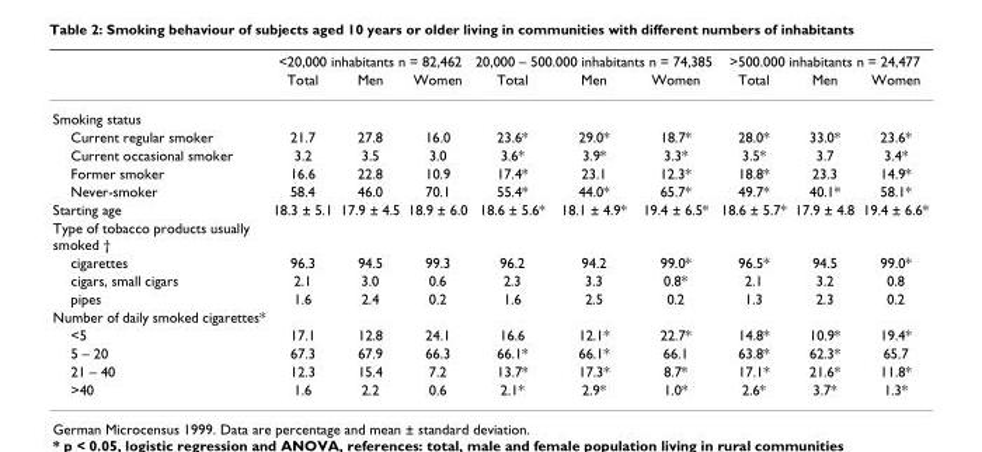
<table><thead><tr><td rowspan="2"></td><td colspan="3">&lt;20,000 inhabitants n = 82,462</td><td colspan="3">20,000 – 500.000 inhabitants n = 74,385</td><td colspan="3">&gt;500.000 inhabitants n = 24,477</td></tr><tr><td>Total</td><td>Men</td><td>Women</td><td>Total</td><td>Men</td><td>Women</td><td>Total</td><td>Men</td><td>Women</td></tr></thead><tbody><tr><td colspan="10">Smoking status</td></tr><tr><td>Current regular smoker</td><td>21.7</td><td>27.8</td><td>16.0</td><td>23.6*</td><td>29.0*</td><td>18.7*</td><td>28.0*</td><td>33.0*</td><td>23.6*</td></tr><tr><td>Current occasional smoker</td><td>3.2</td><td>3.5</td><td>3.0</td><td>3.6*</td><td>3.9*</td><td>3.3*</td><td>3.5*</td><td>3.7</td><td>3.4*</td></tr><tr><td>Former smoker</td><td>16.6</td><td>22.8</td><td>10.9</td><td>17.4*</td><td>23.1</td><td>12.3*</td><td>18.8*</td><td>23.3</td><td>14.9*</td></tr><tr><td>Never-smoker</td><td>58.4</td><td>46.0</td><td>70.1</td><td>55.4*</td><td>44.0*</td><td>65.7*</td><td>49.7*</td><td>40.1*</td><td>58.1*</td></tr><tr><td>Starting age</td><td>18.3 ± 5.1</td><td>17.9 ± 4.5</td><td>18.9 ± 6.0</td><td>18.6 ± 5.6*</td><td>18.1 ± 4.9*</td><td>19.4 ± 6.5*</td><td>18.6 ± 5.7*</td><td>17.9 ± 4.8</td><td>19.4 ± 6.6*</td></tr><tr><td colspan="10">Type of tobacco products usually smoked †</td></tr><tr><td>cigarettes</td><td>96.3</td><td>94.5</td><td>99.3</td><td>96.2</td><td>94.2</td><td>99.0*</td><td>96.5*</td><td>94.5</td><td>99.0*</td></tr><tr><td>cigars, small cigars</td><td>2.1</td><td>3.0</td><td>0.6</td><td>2.3</td><td>3.3</td><td>0.8*</td><td>2.1</td><td>3.2</td><td>0.8</td></tr><tr><td>pipes</td><td>1.6</td><td>2.4</td><td>0.2</td><td>1.6</td><td>2.5</td><td>0.2</td><td>1.3</td><td>2.3</td><td>0.2</td></tr><tr><td colspan="10">Number of daily smoked cigarettes*</td></tr><tr><td>&lt;5</td><td>17.1</td><td>12.8</td><td>24.1</td><td>16.6</td><td>12.1*</td><td>22.7*</td><td>14.8*</td><td>10.9*</td><td>19.4*</td></tr><tr><td>5 – 20</td><td>67.3</td><td>67.9</td><td>66.3</td><td>66.1*</td><td>66.1*</td><td>66.1</td><td>63.8*</td><td>62.3*</td><td>65.7</td></tr><tr><td>21 – 40</td><td>12.3</td><td>15.4</td><td>7.2</td><td>13.7*</td><td>17.3*</td><td>8.7*</td><td>17.1*</td><td>21.6*</td><td>11.8*</td></tr><tr><td>&gt;40</td><td>1.6</td><td>2.2</td><td>0.6</td><td>2.1*</td><td>2.9*</td><td>1.0*</td><td>2.6*</td><td>3.7*</td><td>1.3*</td></tr></tbody></table>